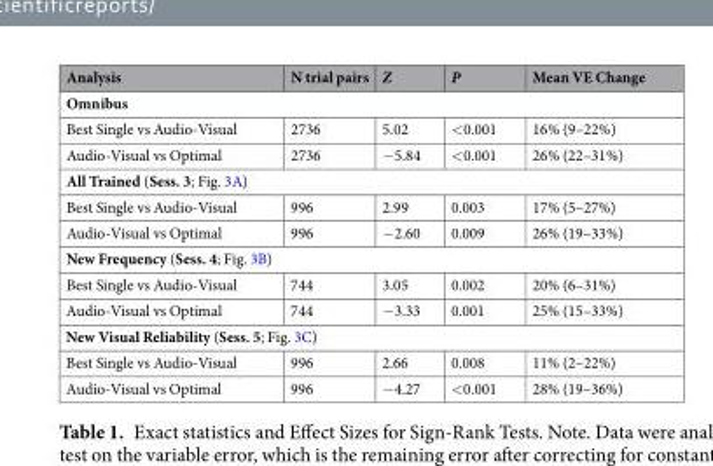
<table><thead><tr><td>Analysis</td><td>N trial pairs</td><td>Z</td><td>P</td><td>Mean VE Change</td></tr></thead><tbody><tr><td colspan="5">Omnibus</td></tr><tr><td>Best Single vs Audio-Visual</td><td>2736</td><td>5.02</td><td>&lt;0.001</td><td>16% (9–22%)</td></tr><tr><td>Audio-Visual vs Optimal</td><td>2736</td><td>−5.84</td><td>&lt;0.001</td><td>26% (22–31%)</td></tr><tr><td colspan="5">All Trained (Sess. 3; Fig. 3A)</td></tr><tr><td>Best Single vs Audio-Visual</td><td>996</td><td>2.99</td><td>0.003</td><td>17% (5–27%)</td></tr><tr><td>Audio-Visual vs Optimal</td><td>996</td><td>−2.60</td><td>0.009</td><td>26% (19–33%)</td></tr><tr><td colspan="5">New Frequency (Sess. 4; Fig. 3B)</td></tr><tr><td>Best Single vs Audio-Visual</td><td>744</td><td>3.05</td><td>0.002</td><td>20% (6–31%)</td></tr><tr><td>Audio-Visual vs Optimal</td><td>744</td><td>−3.33</td><td>0.001</td><td>25% (15–33%)</td></tr><tr><td colspan="5">New Visual Reliability (Sess. 5; Fig. 3C)</td></tr><tr><td>Best Single vs Audio-Visual</td><td>996</td><td>2.66</td><td>0.008</td><td>11% (2–22%)</td></tr><tr><td>Audio-Visual vs Optimal</td><td>996</td><td>−4.27</td><td>&lt;0.001</td><td>28% (19–36%)</td></tr></tbody></table>